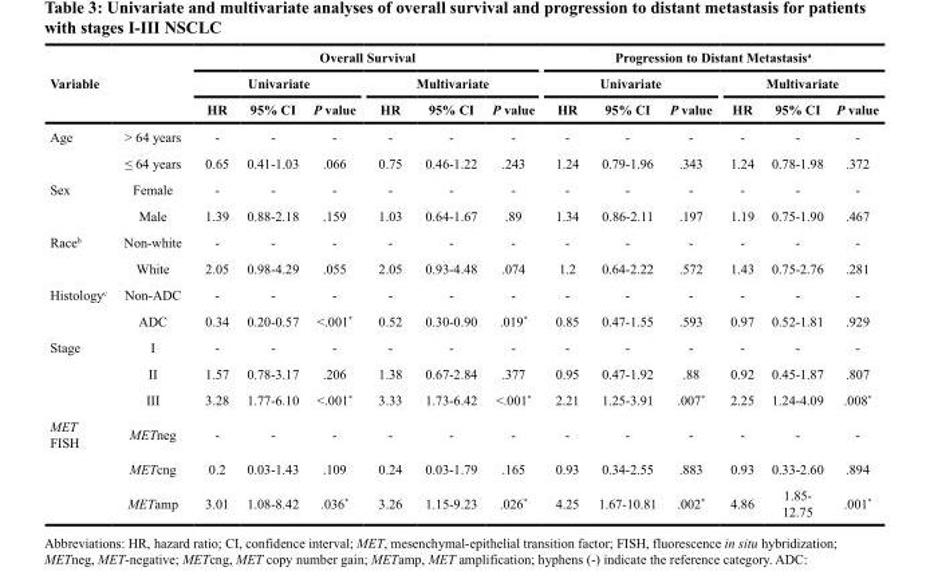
<table><thead><tr><td rowspan="3">Variable</td><td rowspan="3"></td><td colspan="6">Overall Survival</td><td colspan="6">Progression to Distant Metastasis<sup>a</sup></td></tr><tr><td colspan="3">Univariate</td><td colspan="3">Multivariate</td><td colspan="3">Univariate</td><td colspan="3">Multivariate</td></tr><tr><td>HR</td><td>95% CI</td><td>P value</td><td>HR</td><td>95% CI</td><td>P value</td><td>HR</td><td>95% CI</td><td>P value</td><td>HR</td><td>95% CI</td><td>P value</td></tr></thead><tbody><tr><td rowspan="2">Age</td><td>&gt; 64 years</td><td>-</td><td>-</td><td>-</td><td>-</td><td>-</td><td>-</td><td>-</td><td>-</td><td>-</td><td>-</td><td>-</td><td>-</td></tr><tr><td>≤ 64 years</td><td>0.65</td><td>0.41-1.03</td><td>.066</td><td>0.75</td><td>0.46-1.22</td><td>.243</td><td>1.24</td><td>0.79-1.96</td><td>.343</td><td>1.24</td><td>0.78-1.98</td><td>.372</td></tr><tr><td rowspan="2">Sex</td><td>Female</td><td>-</td><td>-</td><td>-</td><td>-</td><td>-</td><td>-</td><td>-</td><td>-</td><td>-</td><td>-</td><td>-</td><td>-</td></tr><tr><td>Male</td><td>1.39</td><td>0.88-2.18</td><td>.159</td><td>1.03</td><td>0.64-1.67</td><td>.89</td><td>1.34</td><td>0.86-2.11</td><td>.197</td><td>1.19</td><td>0.75-1.90</td><td>.467</td></tr><tr><td rowspan="2">Race<sup>b</sup></td><td>Non-white</td><td>-</td><td>-</td><td>-</td><td>-</td><td>-</td><td>-</td><td>-</td><td>-</td><td>-</td><td>-</td><td>-</td><td>-</td></tr><tr><td>White</td><td>2.05</td><td>0.98-4.29</td><td>.055</td><td>2.05</td><td>0.93-4.48</td><td>.074</td><td>1.2</td><td>0.64-2.22</td><td>.572</td><td>1.43</td><td>0.75-2.76</td><td>.281</td></tr><tr><td rowspan="2">Histology<sup>c</sup></td><td>Non-ADC</td><td>-</td><td>-</td><td>-</td><td>-</td><td>-</td><td>-</td><td>-</td><td>-</td><td>-</td><td>-</td><td>-</td><td>-</td></tr><tr><td>ADC</td><td>0.34</td><td>0.20-0.57</td><td>&lt;.001*</td><td>0.52</td><td>0.30-0.90</td><td>.019*</td><td>0.85</td><td>0.47-1.55</td><td>.593</td><td>0.97</td><td>0.52-1.81</td><td>.929</td></tr><tr><td rowspan="3">Stage</td><td>I</td><td>-</td><td>-</td><td>-</td><td>-</td><td>-</td><td>-</td><td>-</td><td>-</td><td>-</td><td>-</td><td>-</td><td>-</td></tr><tr><td>II</td><td>1.57</td><td>0.78-3.17</td><td>.206</td><td>1.38</td><td>0.67-2.84</td><td>.377</td><td>0.95</td><td>0.47-1.92</td><td>.88</td><td>0.92</td><td>0.45-1.87</td><td>.807</td></tr><tr><td>III</td><td>3.28</td><td>1.77-6.10</td><td>&lt;.001*</td><td>3.33</td><td>1.73-6.42</td><td>&lt;.001*</td><td>2.21</td><td>1.25-3.91</td><td>.007*</td><td>2.25</td><td>1.24-4.09</td><td>.008*</td></tr><tr><td rowspan="3">MET FISH</td><td>METneg</td><td>-</td><td>-</td><td>-</td><td>-</td><td>-</td><td>-</td><td>-</td><td>-</td><td>-</td><td>-</td><td>-</td><td>-</td></tr><tr><td>METcng</td><td>0.2</td><td>0.03-1.43</td><td>.109</td><td>0.24</td><td>0.03-1.79</td><td>.165</td><td>0.93</td><td>0.34-2.55</td><td>.883</td><td>0.93</td><td>0.33-2.60</td><td>.894</td></tr><tr><td>METamp</td><td>3.01</td><td>1.08-8.42</td><td>.036*</td><td>3.26</td><td>1.15-9.23</td><td>.026*</td><td>4.25</td><td>1.67-10.81</td><td>.002*</td><td>4.86</td><td>1.85- 12.75</td><td>.001*</td></tr></tbody></table>